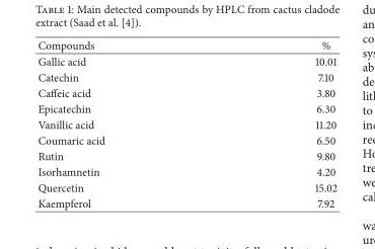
<table><thead><tr><td>Compounds</td><td>%</td></tr></thead><tbody><tr><td>Gallic acid</td><td>10.01</td></tr><tr><td>Catechin</td><td>7.10</td></tr><tr><td>Caffeic acid</td><td>3.80</td></tr><tr><td>Epicatechin</td><td>6.30</td></tr><tr><td>Vanillic acid</td><td>11.20</td></tr><tr><td>Coumaric acid</td><td>6.50</td></tr><tr><td>Rutin</td><td>9.80</td></tr><tr><td>Isorhamnetin</td><td>4.20</td></tr><tr><td>Quercetin</td><td>15.02</td></tr><tr><td>Kaempferol</td><td>7.92</td></tr></tbody></table>